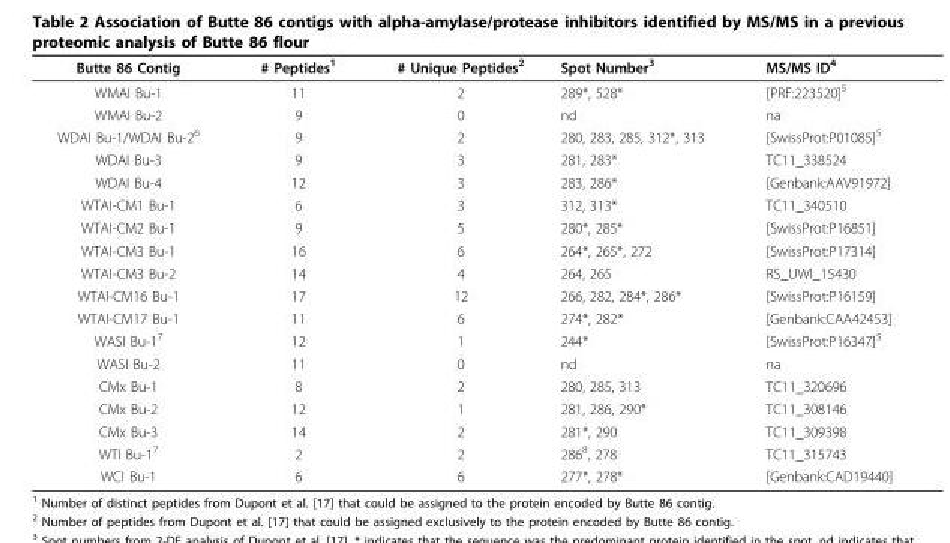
<table><thead><tr><td>Butte 86 Contig</td><td># Peptides<sup>1</sup></td><td># Unique Peptides<sup>2</sup></td><td>Spot Number<sup>3</sup></td><td>MS/MS ID<sup>4</sup></td></tr></thead><tbody><tr><td>WMAI Bu-1</td><td>11</td><td>2</td><td>289*, 528*</td><td>[PRF:223520]<sup>5</sup></td></tr><tr><td>WMAI Bu-2</td><td>9</td><td>0</td><td>nd</td><td>na</td></tr><tr><td>WDAI Bu-1/WDAI Bu-2<sup>6</sup></td><td>9</td><td>2</td><td>280, 283, 285, 312*, 313</td><td>[SwissProt:P01085]<sup>5</sup></td></tr><tr><td>WDAI Bu-3</td><td>9</td><td>3</td><td>281, 283*</td><td>TC11_338524</td></tr><tr><td>WDAI Bu-4</td><td>12</td><td>3</td><td>283, 286*</td><td>[Genbank:AAV91972]</td></tr><tr><td>WTAI-CM1 Bu-1</td><td>6</td><td>3</td><td>312, 313*</td><td>TC11_340510</td></tr><tr><td>WTAI-CM2 Bu-1</td><td>9</td><td>5</td><td>280*, 285*</td><td>[SwissProt:P16851]</td></tr><tr><td>WTAI-CM3 Bu-1</td><td>16</td><td>6</td><td>264*, 265*, 272</td><td>[SwissProt:P17314]</td></tr><tr><td>WTAI-CM3 Bu-2</td><td>14</td><td>4</td><td>264, 265</td><td>RS_UWI_15430</td></tr><tr><td>WTAI-CM16 Bu-1</td><td>17</td><td>12</td><td>266, 282, 284*, 286*</td><td>[SwissProt:P16159]</td></tr><tr><td>WTAI-CM17 Bu-1</td><td>11</td><td>6</td><td>274*, 282*</td><td>[Genbank:CAA42453]</td></tr><tr><td>WASI Bu-1<sup>7</sup></td><td>12</td><td>1</td><td>244*</td><td>[SwissProt:P16347]<sup>5</sup></td></tr><tr><td>WASI Bu-2</td><td>11</td><td>0</td><td>nd</td><td>na</td></tr><tr><td>CMx Bu-1</td><td>8</td><td>2</td><td>280, 285, 313</td><td>TC11_320696</td></tr><tr><td>CMx Bu-2</td><td>12</td><td>1</td><td>281, 286, 290*</td><td>TC11_308146</td></tr><tr><td>CMx Bu-3</td><td>14</td><td>2</td><td>281*, 290</td><td>TC11_309398</td></tr><tr><td>WTI Bu-1<sup>7</sup></td><td>2</td><td>2</td><td>286<sup>8</sup>, 278</td><td>TC11_315743</td></tr><tr><td>WCI Bu-1</td><td>6</td><td>6</td><td>277*, 278*</td><td>[Genbank:CAD19440]</td></tr></tbody></table>